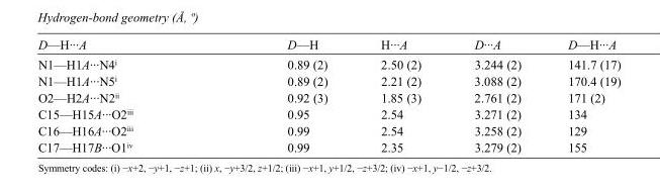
<table><tbody><tr><td>D—H···A</td><td>D—H</td><td>H···A</td><td>D···A</td><td>D—H···A</td></tr><tr><td>N1—H1A···N4<sup>i</sup></td><td>0.89 (2)</td><td>2.50 (2)</td><td>3.244 (2)</td><td>141.7 (17)</td></tr><tr><td>N1—H1A···N5<sup>i</sup></td><td>0.89 (2)</td><td>2.21 (2)</td><td>3.088 (2)</td><td>170.4 (19)</td></tr><tr><td>O2—H2A···N2<sup>ii</sup></td><td>0.92 (3)</td><td>1.85 (3)</td><td>2.761 (2)</td><td>171 (2)</td></tr><tr><td>C15—H15A···O2<sup>iii</sup></td><td>0.95</td><td>2.54</td><td>3.271 (2)</td><td>134</td></tr><tr><td>C16—H16A···O2<sup>iii</sup></td><td>0.99</td><td>2.54</td><td>3.258 (2)</td><td>129</td></tr><tr><td>C17—H17B···O1<sup>iv</sup></td><td>0.99</td><td>2.35</td><td>3.279 (2)</td><td>155</td></tr></tbody></table>